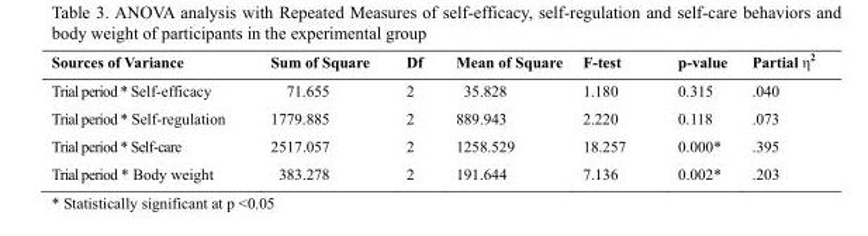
<table><thead><tr><td>Sources of Variance</td><td>Sum of Square</td><td>Df</td><td>Mean of Square</td><td>F-test</td><td>p-value</td><td>Partial η<sup>2</sup></td></tr></thead><tbody><tr><td>Trial period * Self-efficacy</td><td>71.655</td><td>2</td><td>35.828</td><td>1.180</td><td>0.315</td><td>.040</td></tr><tr><td>Trial period * Self-regulation</td><td>1779.885</td><td>2</td><td>889.943</td><td>2.220</td><td>0.118</td><td>.073</td></tr><tr><td>Trial period * Self-care</td><td>2517.057</td><td>2</td><td>1258.529</td><td>18.257</td><td>0.000*</td><td>.395</td></tr><tr><td>Trial period * Body weight</td><td>383.278</td><td>2</td><td>191.644</td><td>7.136</td><td>0.002*</td><td>.203</td></tr></tbody></table>